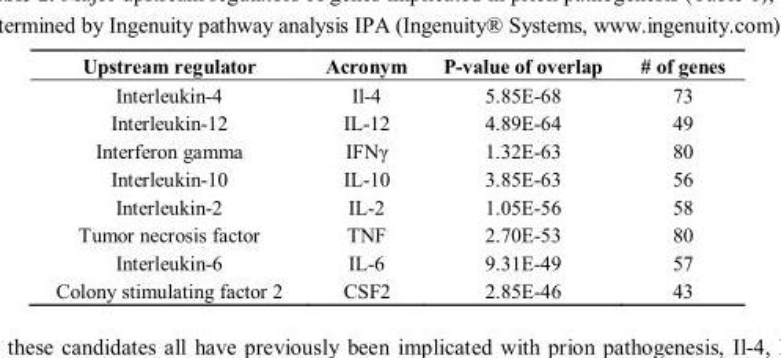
<table><thead><tr><td>Upstream regulator</td><td>Acronym</td><td>P-value of overlap</td><td># of genes</td></tr></thead><tbody><tr><td>Interleukin-4</td><td>Il-4</td><td>5.85E-68</td><td>73</td></tr><tr><td>Interleukin-12</td><td>IL-12</td><td>4.89E-64</td><td>49</td></tr><tr><td>Interferon gamma</td><td>IFNγ</td><td>1.32E-63</td><td>80</td></tr><tr><td>Interleukin-10</td><td>IL-10</td><td>3.85E-63</td><td>56</td></tr><tr><td>Interleukin-2</td><td>IL-2</td><td>1.05E-56</td><td>58</td></tr><tr><td>Tumor necrosis factor</td><td>TNF</td><td>2.70E-53</td><td>80</td></tr><tr><td>Interleukin-6</td><td>IL-6</td><td>9.31E-49</td><td>57</td></tr><tr><td>Colony stimulating factor 2</td><td>CSF2</td><td>2.85E-46</td><td>43</td></tr></tbody></table>